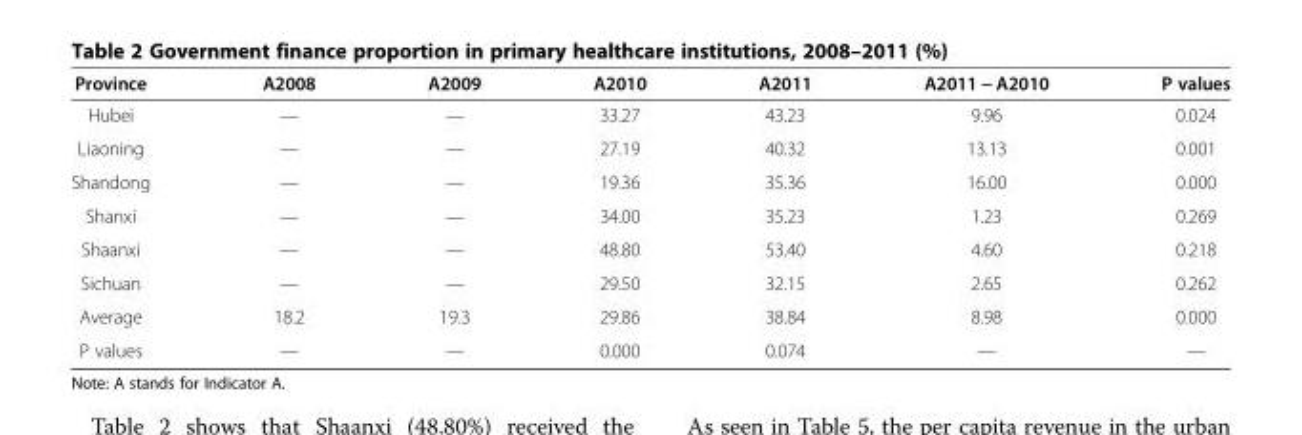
<table><thead><tr><td>Province</td><td>A2008</td><td>A2009</td><td>A2010</td><td>A2011</td><td>A2011 − A2010</td><td>P values</td></tr></thead><tbody><tr><td>Hubei</td><td>—</td><td>—</td><td>33.27</td><td>43.23</td><td>9.96</td><td>0.024</td></tr><tr><td>Liaoning</td><td>—</td><td>—</td><td>27.19</td><td>40.32</td><td>13.13</td><td>0.001</td></tr><tr><td>Shandong</td><td>—</td><td>—</td><td>19.36</td><td>35.36</td><td>16.00</td><td>0.000</td></tr><tr><td>Shanxi</td><td>—</td><td>—</td><td>34.00</td><td>35.23</td><td>1.23</td><td>0.269</td></tr><tr><td>Shaanxi</td><td>—</td><td>—</td><td>48.80</td><td>53.40</td><td>4.60</td><td>0.218</td></tr><tr><td>Sichuan</td><td>—</td><td>—</td><td>29.50</td><td>32.15</td><td>2.65</td><td>0.262</td></tr><tr><td>Average</td><td>18.2</td><td>19.3</td><td>29.86</td><td>38.84</td><td>8.98</td><td>0.000</td></tr><tr><td>P values</td><td>—</td><td>—</td><td>0.000</td><td>0.074</td><td>—</td><td>—</td></tr></tbody></table>